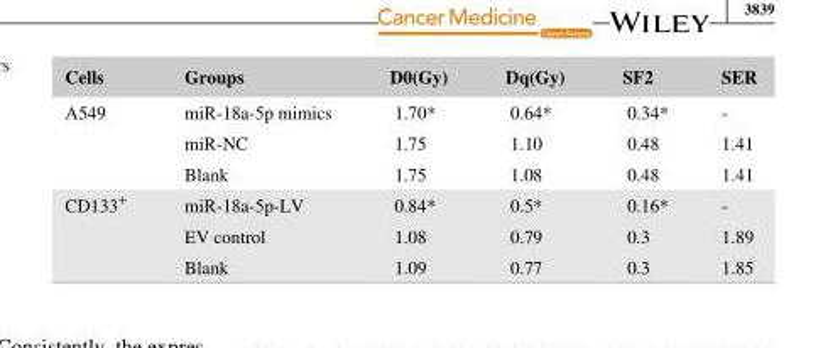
<table><thead><tr><td>Cells</td><td>Groups</td><td>D0(Gy)</td><td>Dq(Gy)</td><td>SF2</td><td>SER</td></tr></thead><tbody><tr><td rowspan="3">A549</td><td>miR- 18a- 5p mimics</td><td>1.70*</td><td>0.64*</td><td>0.34*</td><td>-</td></tr><tr><td>miR- NC</td><td>1.75</td><td>1.10</td><td>0.48</td><td>1.41</td></tr><tr><td>Blank</td><td>1.75</td><td>1.08</td><td>0.48</td><td>1.41</td></tr><tr><td rowspan="3">CD133<sup>+</sup></td><td>miR- 18a- 5p- LV</td><td>0.84*</td><td>0.5*</td><td>0.16*</td><td>-</td></tr><tr><td>EV control</td><td>1.08</td><td>0.79</td><td>0.3</td><td>1.89</td></tr><tr><td>Blank</td><td>1.09</td><td>0.77</td><td>0.3</td><td>1.85</td></tr></tbody></table>